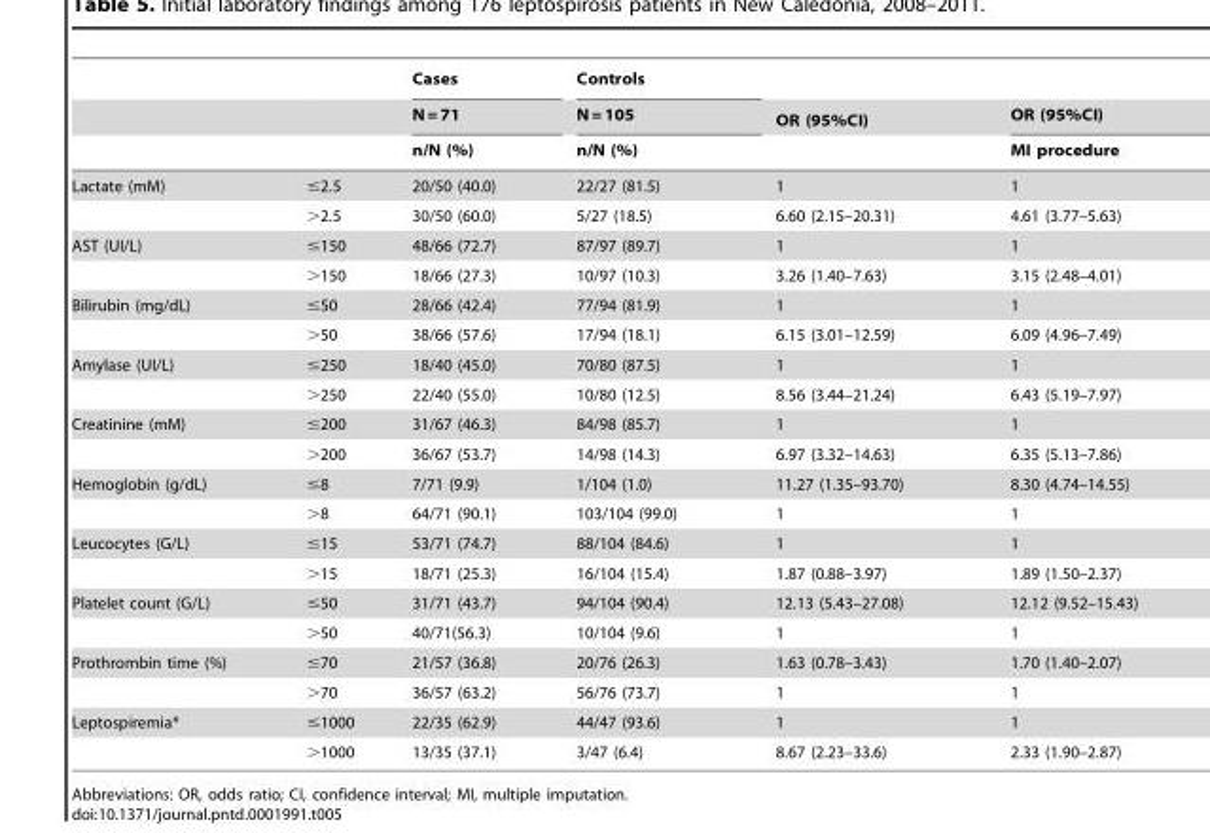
<table><thead><tr><td rowspan="3"></td><td rowspan="3"></td><td rowspan="3">Cases N = 71 n/N (%)</td><td rowspan="3">Controls N = 105 n/N (%)</td><td rowspan="3">OR (95%CI)</td><td rowspan="3">OR (95%CI) MI procedure</td></tr><tr></tr><tr></tr></thead><tbody><tr><td rowspan="2">Lactate (mM)</td><td>≤2.5</td><td>20/50 (40.0)</td><td>22/27 (81.5)</td><td>1</td><td>1</td></tr><tr><td>&gt;2.5</td><td>30/50 (60.0)</td><td>5/27 (18.5)</td><td>6.60 (2.15–20.31)</td><td>4.61 (3.77–5.63)</td></tr><tr><td rowspan="2">AST (UI/L)</td><td>≤150</td><td>48/66 (72.7)</td><td>87/97 (89.7)</td><td>1</td><td>1</td></tr><tr><td>&gt;150</td><td>18/66 (27.3)</td><td>10/97 (10.3)</td><td>3.26 (1.40–7.63)</td><td>3.15 (2.48–4.01)</td></tr><tr><td rowspan="2">Bilirubin (mg/dL)</td><td>≤50</td><td>28/66 (42.4)</td><td>77/94 (81.9)</td><td>1</td><td>1</td></tr><tr><td>&gt;50</td><td>38/66 (57.6)</td><td>17/94 (18.1)</td><td>6.15 (3.01–12.59)</td><td>6.09 (4.96–7.49)</td></tr><tr><td rowspan="2">Amylase (UI/L)</td><td>≤250</td><td>18/40 (45.0)</td><td>70/80 (87.5)</td><td>1</td><td>1</td></tr><tr><td>&gt;250</td><td>22/40 (55.0)</td><td>10/80 (12.5)</td><td>8.56 (3.44–21.24)</td><td>6.43 (5.19–7.97)</td></tr><tr><td rowspan="2">Creatinine (mM)</td><td>≤200</td><td>31/67 (46.3)</td><td>84/98 (85.7)</td><td>1</td><td>1</td></tr><tr><td>&gt;200</td><td>36/67 (53.7)</td><td>14/98 (14.3)</td><td>6.97 (3.32–14.63)</td><td>6.35 (5.13–7.86)</td></tr><tr><td rowspan="2">Hemoglobin (g/dL)</td><td>≤8</td><td>7/71 (9.9)</td><td>1/104 (1.0)</td><td>11.27 (1.35–93.70)</td><td>8.30 (4.74–14.55)</td></tr><tr><td>&gt;8</td><td>64/71 (90.1)</td><td>103/104 (99.0)</td><td>1</td><td>1</td></tr><tr><td rowspan="2">Leucocytes (G/L)</td><td>≤15</td><td>53/71 (74.7)</td><td>88/104 (84.6)</td><td>1</td><td>1</td></tr><tr><td>&gt;15</td><td>18/71 (25.3)</td><td>16/104 (15.4)</td><td>1.87 (0.88–3.97)</td><td>1.89 (1.50–2.37)</td></tr><tr><td rowspan="2">Platelet count (G/L)</td><td>≤50</td><td>31/71 (43.7)</td><td>94/104 (90.4)</td><td>12.13 (5.43–27.08)</td><td>12.12 (9.52–15.43)</td></tr><tr><td>&gt;50</td><td>40/71(56.3)</td><td>10/104 (9.6)</td><td>1</td><td>1</td></tr><tr><td rowspan="2">Prothrombin time (%)</td><td>≤70</td><td>21/57 (36.8)</td><td>20/76 (26.3)</td><td>1.63 (0.78–3.43)</td><td>1.70 (1.40–2.07)</td></tr><tr><td>&gt;70</td><td>36/57 (63.2)</td><td>56/76 (73.7)</td><td>1</td><td>1</td></tr><tr><td rowspan="2">Leptospiremia*</td><td>≤1000</td><td>22/35 (62.9)</td><td>44/47 (93.6)</td><td>1</td><td>1</td></tr><tr><td>&gt;1000</td><td>13/35 (37.1)</td><td>3/47 (6.4)</td><td>8.67 (2.23–33.6)</td><td>2.33 (1.90–2.87)</td></tr></tbody></table>